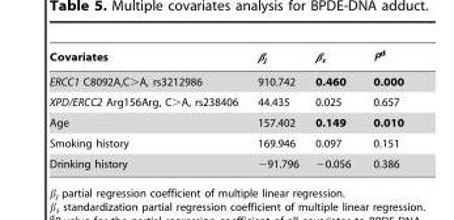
<table><thead><tr><td>Covariates</td><td>β<sub>j</sub></td><td>β<sub>s</sub></td><td>Pd</td></tr></thead><tbody><tr><td>ERCC1 C8092A,C&gt;A, rs3212986</td><td>910.742</td><td>0.460</td><td>0.000</td></tr><tr><td>XPD/ERCC2 Arg156Arg, C&gt;A, rs238406</td><td>44.435</td><td>0.025</td><td>0.657</td></tr><tr><td>Age</td><td>157.402</td><td>0.149</td><td>0.010</td></tr><tr><td>Smoking history</td><td>169.946</td><td>0.097</td><td>0.151</td></tr><tr><td>Drinking history</td><td>−91.796</td><td>−0.056</td><td>0.386</td></tr></tbody></table>